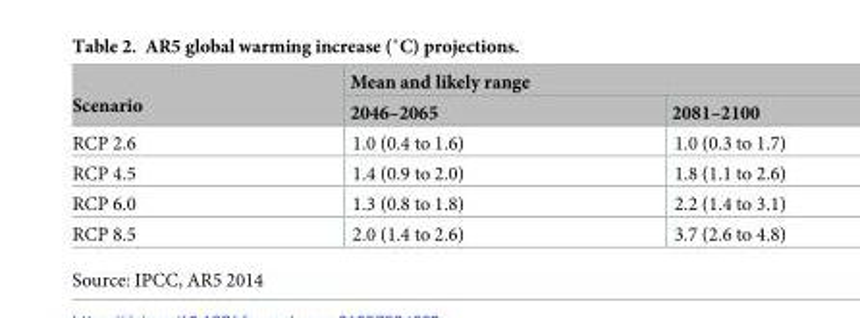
<table><thead><tr><td rowspan="2">Scenario</td><td colspan="2">Mean and likely range</td></tr><tr><td>2046–2065</td><td>2081–2100</td></tr></thead><tbody><tr><td>RCP 2.6</td><td>1.0 (0.4 to 1.6)</td><td>1.0 (0.3 to 1.7)</td></tr><tr><td>RCP 4.5</td><td>1.4 (0.9 to 2.0)</td><td>1.8 (1.1 to 2.6)</td></tr><tr><td>RCP 6.0</td><td>1.3 (0.8 to 1.8)</td><td>2.2 (1.4 to 3.1)</td></tr><tr><td>RCP 8.5</td><td>2.0 (1.4 to 2.6)</td><td>3.7 (2.6 to 4.8)</td></tr></tbody></table>